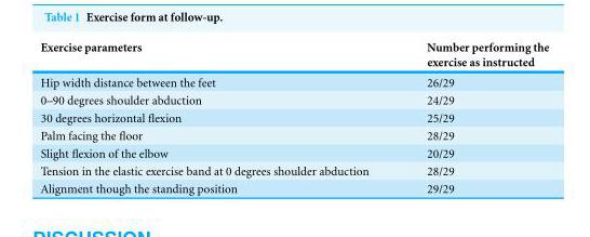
<table><thead><tr><td>Exercise parameters</td><td>Number performing the exercise as instructed</td></tr></thead><tbody><tr><td>Hip width distance between the feet</td><td>26/29</td></tr><tr><td>0–90 degrees shoulder abduction</td><td>24/29</td></tr><tr><td>30 degrees horizontal flexion</td><td>25/29</td></tr><tr><td>Palm facing the floor</td><td>28/29</td></tr><tr><td>Slight flexion of the elbow</td><td>20/29</td></tr><tr><td>Tension in the elastic exercise band at 0 degrees shoulder abduction</td><td>28/29</td></tr><tr><td>Alignment though the standing position</td><td>29/29</td></tr></tbody></table>